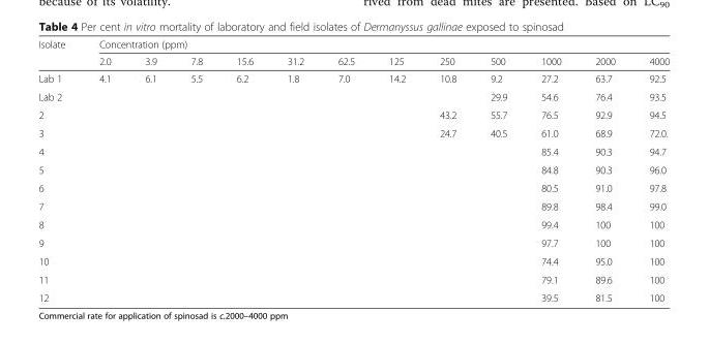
<table><thead><tr><td rowspan="2">Isolate</td><td colspan="12">Concentration (ppm)</td></tr><tr><td>2.0</td><td>3.9</td><td>7.8</td><td>15.6</td><td>31.2</td><td>62.5</td><td>125</td><td>250</td><td>500</td><td>1000</td><td>2000</td><td>4000</td></tr></thead><tbody><tr><td>Lab 1</td><td>4.1</td><td>6.1</td><td>5.5</td><td>6.2</td><td>1.8</td><td>7.0</td><td>14.2</td><td>10.8</td><td>9.2</td><td>27.2</td><td>63.7</td><td>92.5</td></tr><tr><td>Lab 2</td><td></td><td></td><td></td><td></td><td></td><td></td><td></td><td></td><td>29.9</td><td>54.6</td><td>76.4</td><td>93.5</td></tr><tr><td>2</td><td></td><td></td><td></td><td></td><td></td><td></td><td></td><td>43.2</td><td>55.7</td><td>76.5</td><td>92.9</td><td>94.5</td></tr><tr><td>3</td><td></td><td></td><td></td><td></td><td></td><td></td><td></td><td>24.7</td><td>40.5</td><td>61.0</td><td>68.9</td><td>72.0.</td></tr><tr><td>4</td><td></td><td></td><td></td><td></td><td></td><td></td><td></td><td></td><td></td><td>85.4</td><td>90.3</td><td>94.7</td></tr><tr><td>5</td><td></td><td></td><td></td><td></td><td></td><td></td><td></td><td></td><td></td><td>84.8</td><td>90.3</td><td>96.0</td></tr><tr><td>6</td><td></td><td></td><td></td><td></td><td></td><td></td><td></td><td></td><td></td><td>80.5</td><td>91.0</td><td>97.8</td></tr><tr><td>7</td><td></td><td></td><td></td><td></td><td></td><td></td><td></td><td></td><td></td><td>89.8</td><td>98.4</td><td>99.0</td></tr><tr><td>8</td><td></td><td></td><td></td><td></td><td></td><td></td><td></td><td></td><td></td><td>99.4</td><td>100</td><td>100</td></tr><tr><td>9</td><td></td><td></td><td></td><td></td><td></td><td></td><td></td><td></td><td></td><td>97.7</td><td>100</td><td>100</td></tr><tr><td>10</td><td></td><td></td><td></td><td></td><td></td><td></td><td></td><td></td><td></td><td>74.4</td><td>95.0</td><td>100</td></tr><tr><td>11</td><td></td><td></td><td></td><td></td><td></td><td></td><td></td><td></td><td></td><td>79.1</td><td>89.6</td><td>100</td></tr><tr><td>12</td><td></td><td></td><td></td><td></td><td></td><td></td><td></td><td></td><td></td><td>39.5</td><td>81.5</td><td>100</td></tr></tbody></table>